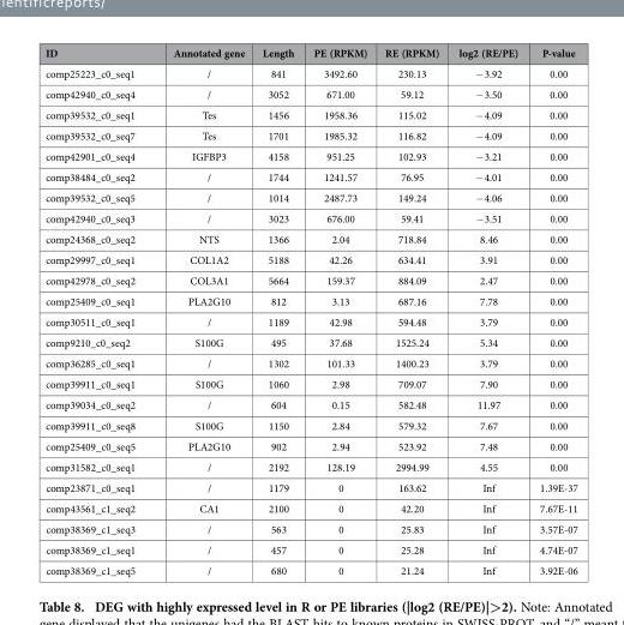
<table><thead><tr><td>ID</td><td>Annotated gene</td><td>Length</td><td>PE (RPKM)</td><td>RE (RPKM)</td><td>log2 (RE/PE)</td><td>P-value</td></tr></thead><tbody><tr><td>comp25223_c0_seq1</td><td>/</td><td>841</td><td>3492.60</td><td>230.13</td><td>− 3.92</td><td>0.00</td></tr><tr><td>comp42940_c0_seq4</td><td>/</td><td>3052</td><td>671.00</td><td>59.12</td><td>− 3.50</td><td>0.00</td></tr><tr><td>comp39532_c0_seq1</td><td>Tes</td><td>1456</td><td>1958.36</td><td>115.02</td><td>− 4.09</td><td>0.00</td></tr><tr><td>comp39532_c0_seq7</td><td>Tes</td><td>1701</td><td>1985.32</td><td>116.82</td><td>− 4.09</td><td>0.00</td></tr><tr><td>comp42901_c0_seq4</td><td>IGFBP3</td><td>4158</td><td>951.25</td><td>102.93</td><td>− 3.21</td><td>0.00</td></tr><tr><td>comp38484_c0_seq2</td><td>/</td><td>1744</td><td>1241.57</td><td>76.95</td><td>− 4.01</td><td>0.00</td></tr><tr><td>comp39532_c0_seq5</td><td>/</td><td>1014</td><td>2487.73</td><td>149.24</td><td>− 4.06</td><td>0.00</td></tr><tr><td>comp42940_c0_seq3</td><td>/</td><td>3023</td><td>676.00</td><td>59.41</td><td>− 3.51</td><td>0.00</td></tr><tr><td>comp24368_c0_seq2</td><td>NTS</td><td>1366</td><td>2.04</td><td>718.84</td><td>8.46</td><td>0.00</td></tr><tr><td>comp29997_c0_seq1</td><td>COL1A2</td><td>5188</td><td>42.26</td><td>634.41</td><td>3.91</td><td>0.00</td></tr><tr><td>comp42978_c0_seq2</td><td>COL3A1</td><td>5664</td><td>159.37</td><td>884.09</td><td>2.47</td><td>0.00</td></tr><tr><td>comp25409_c0_seq1</td><td>PLA2G10</td><td>812</td><td>3.13</td><td>687.16</td><td>7.78</td><td>0.00</td></tr><tr><td>comp30511_c0_seq1</td><td>/</td><td>1189</td><td>42.98</td><td>594.48</td><td>3.79</td><td>0.00</td></tr><tr><td>comp9210_c0_seq2</td><td>S100G</td><td>495</td><td>37.68</td><td>1525.24</td><td>5.34</td><td>0.00</td></tr><tr><td>comp36285_c0_seq1</td><td>/</td><td>1302</td><td>101.33</td><td>1400.23</td><td>3.79</td><td>0.00</td></tr><tr><td>comp39911_c0_seq1</td><td>S100G</td><td>1060</td><td>2.98</td><td>709.07</td><td>7.90</td><td>0.00</td></tr><tr><td>comp39034_c0_seq2</td><td>/</td><td>604</td><td>0.15</td><td>582.48</td><td>11.97</td><td>0.00</td></tr><tr><td>comp39911_c0_seq8</td><td>S100G</td><td>1150</td><td>2.84</td><td>579.32</td><td>7.67</td><td>0.00</td></tr><tr><td>comp25409_c0_seq5</td><td>PLA2G10</td><td>902</td><td>2.94</td><td>523.92</td><td>7.48</td><td>0.00</td></tr><tr><td>comp31582_c0_seq1</td><td>/</td><td>2192</td><td>128.19</td><td>2994.99</td><td>4.55</td><td>0.00</td></tr><tr><td>comp23871_c0_seq1</td><td>/</td><td>1179</td><td>0</td><td>163.62</td><td>Inf</td><td>1.39E-37</td></tr><tr><td>comp43561_c1_seq2</td><td>CA1</td><td>2100</td><td>0</td><td>42.20</td><td>Inf</td><td>7.67E-11</td></tr><tr><td>comp38369_c1_seq3</td><td>/</td><td>563</td><td>0</td><td>25.83</td><td>Inf</td><td>3.57E-07</td></tr><tr><td>comp38369_c1_seq1</td><td>/</td><td>457</td><td>0</td><td>25.28</td><td>Inf</td><td>4.74E-07</td></tr><tr><td>comp38369_c1_seq5</td><td>/</td><td>680</td><td>0</td><td>21.24</td><td>Inf</td><td>3.92E-06</td></tr></tbody></table>